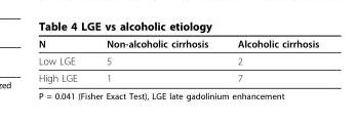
<table><thead><tr><td>N</td><td>Non-alcoholic cirrhosis</td><td>Alcoholic cirrhosis</td></tr></thead><tbody><tr><td>Low LGE</td><td>5</td><td>2</td></tr><tr><td>High LGE</td><td>1</td><td>7</td></tr></tbody></table>